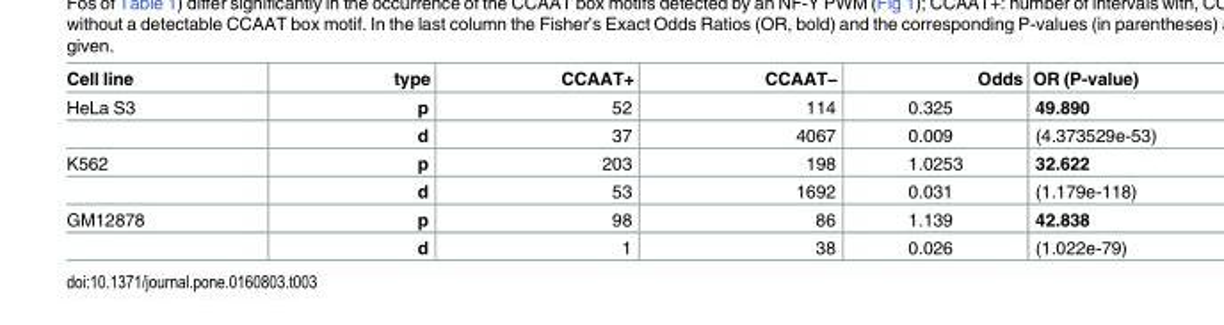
<table><thead><tr><td>Cell line</td><td>type</td><td>CCAAT+</td><td>CCAAT−</td><td>Odds</td><td>OR (P-value)</td></tr></thead><tbody><tr><td rowspan="2">HeLa S3</td><td>p</td><td>52</td><td>114</td><td>0.325</td><td>49.890</td></tr><tr><td>d</td><td>37</td><td>4067</td><td>0.009</td><td>(4.373529e-53)</td></tr><tr><td rowspan="2">K562</td><td>p</td><td>203</td><td>198</td><td>1.0253</td><td>32.622</td></tr><tr><td>d</td><td>53</td><td>1692</td><td>0.031</td><td>(1.179e-118)</td></tr><tr><td rowspan="2">GM12878</td><td>p</td><td>98</td><td>86</td><td>1.139</td><td>42.838</td></tr><tr><td>d</td><td>1</td><td>38</td><td>0.026</td><td>(1.022e-79)</td></tr></tbody></table>